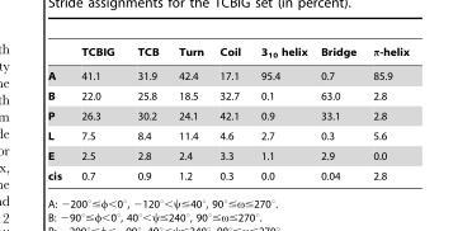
<table><thead><tr><td></td><td>TCBIG</td><td>TCB</td><td>Turn</td><td>Coil</td><td>3<sub>10</sub> helix</td><td>Bridge</td><td>π-helix</td></tr></thead><tbody><tr><td>A</td><td>41.1</td><td>31.9</td><td>42.4</td><td>17.1</td><td>95.4</td><td>0.7</td><td>85.9</td></tr><tr><td>B</td><td>22.0</td><td>25.8</td><td>18.5</td><td>32.7</td><td>0.1</td><td>63.0</td><td>2.8</td></tr><tr><td>P</td><td>26.3</td><td>30.2</td><td>24.1</td><td>42.1</td><td>0.9</td><td>33.1</td><td>2.8</td></tr><tr><td>L</td><td>7.5</td><td>8.4</td><td>11.4</td><td>4.6</td><td>2.7</td><td>0.3</td><td>5.6</td></tr><tr><td>E</td><td>2.5</td><td>2.8</td><td>2.4</td><td>3.3</td><td>1.1</td><td>2.9</td><td>0.0</td></tr><tr><td>cis</td><td>0.7</td><td>0.9</td><td>1.2</td><td>0.3</td><td>0.0</td><td>0.04</td><td>2.8</td></tr></tbody></table>